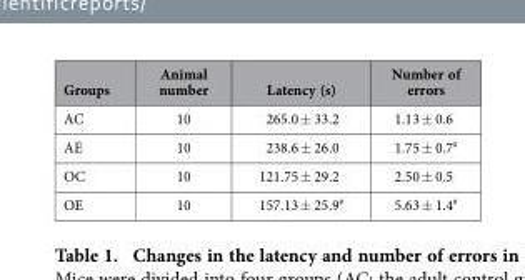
<table><thead><tr><td>Groups</td><td>Animal number</td><td>Latency (s)</td><td>Number of errors</td></tr></thead><tbody><tr><td>AC</td><td>10</td><td>265.0 ± 33.2</td><td>1.13 ± 0.6</td></tr><tr><td>AE</td><td>10</td><td>238.6 ± 26.0</td><td>1.75 ± 0.7<sup>#</sup></td></tr><tr><td>OC</td><td>10</td><td>121.75 ± 29.2</td><td>2.50 ± 0.5</td></tr><tr><td>OE</td><td>10</td><td>157.13 ± 25.9<sup>#</sup></td><td>5.63 ± 1.4<sup>#</sup></td></tr></tbody></table>